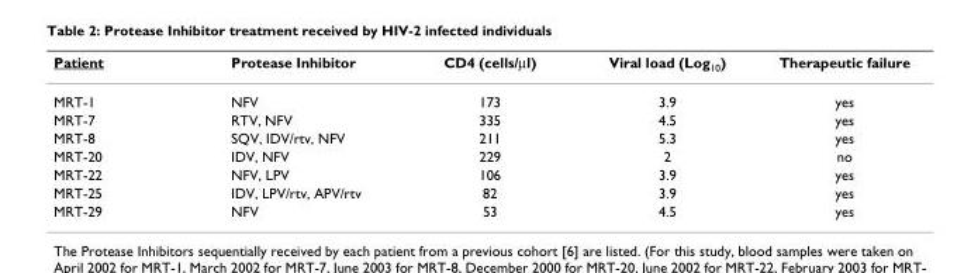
<table><thead><tr><td>Patient</td><td>Protease Inhibitor</td><td>CD4 (cells/μl)</td><td>Viral load (Log<sub>10</sub>)</td><td>Therapeutic failure</td></tr></thead><tbody><tr><td>MRT-1</td><td>NFV</td><td>173</td><td>3.9</td><td>yes</td></tr><tr><td>MRT-7</td><td>RTV, NFV</td><td>335</td><td>4.5</td><td>yes</td></tr><tr><td>MRT-8</td><td>SQV, IDV/rtv, NFV</td><td>211</td><td>5.3</td><td>yes</td></tr><tr><td>MRT-20</td><td>IDV, NFV</td><td>229</td><td>2</td><td>no</td></tr><tr><td>MRT-22</td><td>NFV, LPV</td><td>106</td><td>3.9</td><td>yes</td></tr><tr><td>MRT-25</td><td>IDV, LPV/rtv, APV/rtv</td><td>82</td><td>3.9</td><td>yes</td></tr><tr><td>MRT-29</td><td>NFV</td><td>53</td><td>4.5</td><td>yes</td></tr></tbody></table>